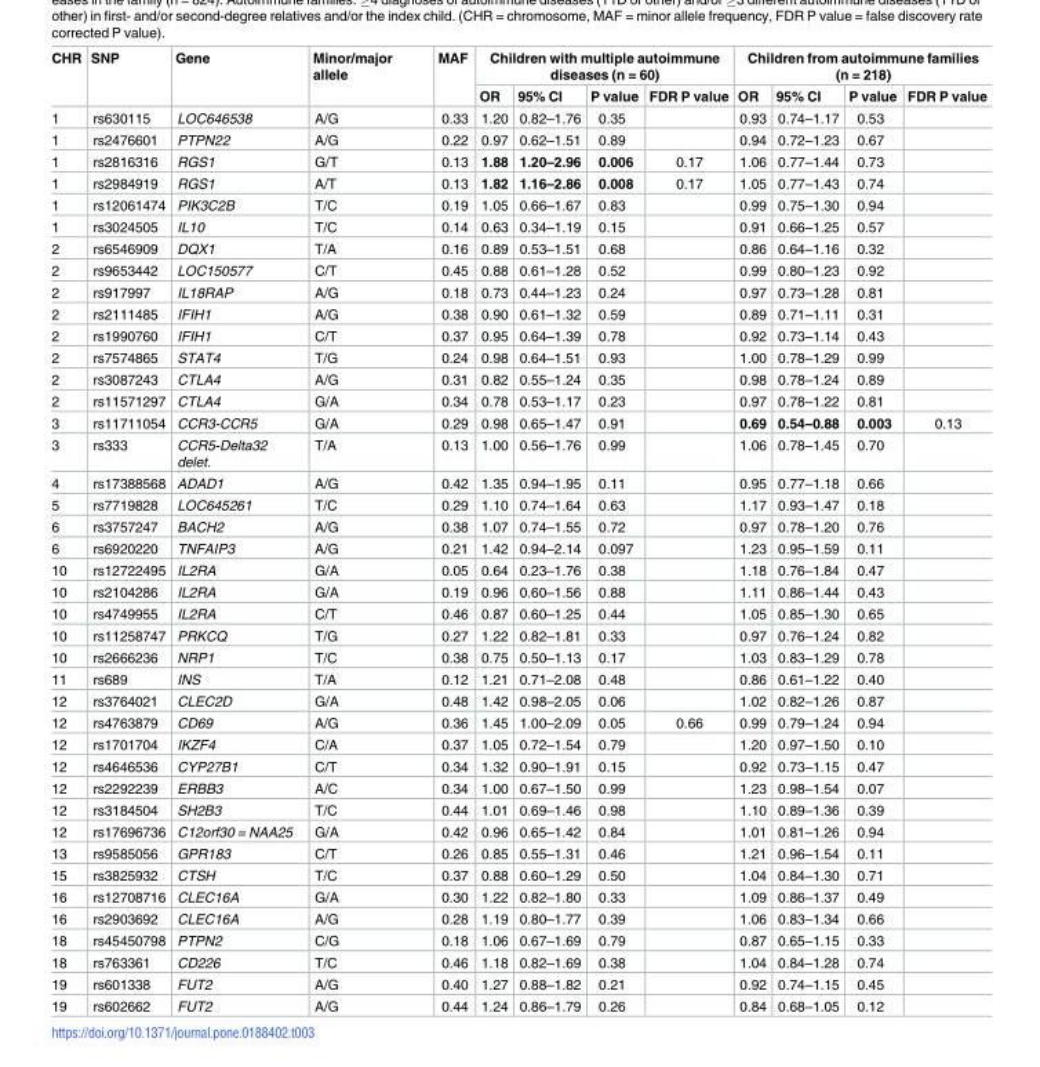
<table><thead><tr><td rowspan="2">CHR</td><td rowspan="2">SNP</td><td rowspan="2">Gene</td><td rowspan="2">Minor/major allele</td><td rowspan="2">MAF</td><td colspan="4">Children with multiple autoimmune diseases (n = 60)</td><td colspan="4">Children from autoimmune families (n = 218)</td></tr><tr><td>OR</td><td>95% CI</td><td>P value</td><td>FDR P value</td><td>OR</td><td>95% CI</td><td>P value</td><td>FDR P value</td></tr></thead><tbody><tr><td>1</td><td>rs630115</td><td>LOC646538</td><td>A/G</td><td>0.33</td><td>1.20</td><td>0.82–1.76</td><td>0.35</td><td></td><td>0.93</td><td>0.74–1.17</td><td>0.53</td><td></td></tr><tr><td>1</td><td>rs2476601</td><td>PTPN22</td><td>A/G</td><td>0.22</td><td>0.97</td><td>0.62–1.51</td><td>0.89</td><td></td><td>0.94</td><td>0.72–1.23</td><td>0.67</td><td></td></tr><tr><td>1</td><td>rs2816316</td><td>RGS1</td><td>G/T</td><td>0.13</td><td>1.88</td><td>1.20–2.96</td><td>0.006</td><td>0.17</td><td>1.06</td><td>0.77–1.44</td><td>0.73</td><td></td></tr><tr><td>1</td><td>rs2984919</td><td>RGS1</td><td>A/T</td><td>0.13</td><td>1.82</td><td>1.16–2.86</td><td>0.008</td><td>0.17</td><td>1.05</td><td>0.77–1.43</td><td>0.74</td><td></td></tr><tr><td>1</td><td>rs12061474</td><td>PIK3C2B</td><td>T/C</td><td>0.19</td><td>1.05</td><td>0.66–1.67</td><td>0.83</td><td></td><td>0.99</td><td>0.75–1.30</td><td>0.94</td><td></td></tr><tr><td>1</td><td>rs3024505</td><td>IL10</td><td>T/C</td><td>0.14</td><td>0.63</td><td>0.34–1.19</td><td>0.15</td><td></td><td>0.91</td><td>0.66–1.25</td><td>0.57</td><td></td></tr><tr><td>2</td><td>rs6546909</td><td>DQX1</td><td>T/A</td><td>0.16</td><td>0.89</td><td>0.53–1.51</td><td>0.68</td><td></td><td>0.86</td><td>0.64–1.16</td><td>0.32</td><td></td></tr><tr><td>2</td><td>rs9653442</td><td>LOC150577</td><td>C/T</td><td>0.45</td><td>0.88</td><td>0.61–1.28</td><td>0.52</td><td></td><td>0.99</td><td>0.80–1.23</td><td>0.92</td><td></td></tr><tr><td>2</td><td>rs917997</td><td>IL18RAP</td><td>A/G</td><td>0.18</td><td>0.73</td><td>0.44–1.23</td><td>0.24</td><td></td><td>0.97</td><td>0.73–1.28</td><td>0.81</td><td></td></tr><tr><td>2</td><td>rs2111485</td><td>IFIH1</td><td>A/G</td><td>0.38</td><td>0.90</td><td>0.61–1.32</td><td>0.59</td><td></td><td>0.89</td><td>0.71–1.11</td><td>0.31</td><td></td></tr><tr><td>2</td><td>rs1990760</td><td>IFIH1</td><td>C/T</td><td>0.37</td><td>0.95</td><td>0.64–1.39</td><td>0.78</td><td></td><td>0.92</td><td>0.73–1.14</td><td>0.43</td><td></td></tr><tr><td>2</td><td>rs7574865</td><td>STAT4</td><td>T/G</td><td>0.24</td><td>0.98</td><td>0.64–1.51</td><td>0.93</td><td></td><td>1.00</td><td>0.78–1.29</td><td>0.99</td><td></td></tr><tr><td>2</td><td>rs3087243</td><td>CTLA4</td><td>A/G</td><td>0.31</td><td>0.82</td><td>0.55–1.24</td><td>0.35</td><td></td><td>0.98</td><td>0.78–1.24</td><td>0.89</td><td></td></tr><tr><td>2</td><td>rs11571297</td><td>CTLA4</td><td>G/A</td><td>0.34</td><td>0.78</td><td>0.53–1.17</td><td>0.23</td><td></td><td>0.97</td><td>0.78–1.22</td><td>0.81</td><td></td></tr><tr><td>3</td><td>rs11711054</td><td>CCR3-CCR5</td><td>G/A</td><td>0.29</td><td>0.98</td><td>0.65–1.47</td><td>0.91</td><td></td><td>0.69</td><td>0.54–0.88</td><td>0.003</td><td>0.13</td></tr><tr><td>3</td><td>rs333</td><td>CCR5-Delta32 delet.</td><td>T/A</td><td>0.13</td><td>1.00</td><td>0.56–1.76</td><td>0.99</td><td></td><td>1.06</td><td>0.78–1.45</td><td>0.70</td><td></td></tr><tr><td>4</td><td>rs17388568</td><td>ADAD1</td><td>A/G</td><td>0.42</td><td>1.35</td><td>0.94–1.95</td><td>0.11</td><td></td><td>0.95</td><td>0.77–1.18</td><td>0.66</td><td></td></tr><tr><td>5</td><td>rs7719828</td><td>LOC645261</td><td>T/C</td><td>0.29</td><td>1.10</td><td>0.74–1.64</td><td>0.63</td><td></td><td>1.17</td><td>0.93–1.47</td><td>0.18</td><td></td></tr><tr><td>6</td><td>rs3757247</td><td>BACH2</td><td>A/G</td><td>0.38</td><td>1.07</td><td>0.74–1.55</td><td>0.72</td><td></td><td>0.97</td><td>0.78–1.20</td><td>0.76</td><td></td></tr><tr><td>6</td><td>rs6920220</td><td>TNFAIP3</td><td>A/G</td><td>0.21</td><td>1.42</td><td>0.94–2.14</td><td>0.097</td><td></td><td>1.23</td><td>0.95–1.59</td><td>0.11</td><td></td></tr><tr><td>10</td><td>rs12722495</td><td>IL2RA</td><td>G/A</td><td>0.05</td><td>0.64</td><td>0.23–1.76</td><td>0.38</td><td></td><td>1.18</td><td>0.76–1.84</td><td>0.47</td><td></td></tr><tr><td>10</td><td>rs2104286</td><td>IL2RA</td><td>G/A</td><td>0.19</td><td>0.96</td><td>0.60–1.56</td><td>0.88</td><td></td><td>1.11</td><td>0.86–1.44</td><td>0.43</td><td></td></tr><tr><td>10</td><td>rs4749955</td><td>IL2RA</td><td>C/T</td><td>0.46</td><td>0.87</td><td>0.60–1.25</td><td>0.44</td><td></td><td>1.05</td><td>0.85–1.30</td><td>0.65</td><td></td></tr><tr><td>10</td><td>rs11258747</td><td>PRKCQ</td><td>T/G</td><td>0.27</td><td>1.22</td><td>0.82–1.81</td><td>0.33</td><td></td><td>0.97</td><td>0.76–1.24</td><td>0.82</td><td></td></tr><tr><td>10</td><td>rs2666236</td><td>NRP1</td><td>T/C</td><td>0.38</td><td>0.75</td><td>0.50–1.13</td><td>0.17</td><td></td><td>1.03</td><td>0.83–1.29</td><td>0.78</td><td></td></tr><tr><td>11</td><td>rs689</td><td>INS</td><td>T/A</td><td>0.12</td><td>1.21</td><td>0.71–2.08</td><td>0.48</td><td></td><td>0.86</td><td>0.61–1.22</td><td>0.40</td><td></td></tr><tr><td>12</td><td>rs3764021</td><td>CLEC2D</td><td>G/A</td><td>0.48</td><td>1.42</td><td>0.98–2.05</td><td>0.06</td><td></td><td>1.02</td><td>0.82–1.26</td><td>0.87</td><td></td></tr><tr><td>12</td><td>rs4763879</td><td>CD69</td><td>A/G</td><td>0.36</td><td>1.45</td><td>1.00–2.09</td><td>0.05</td><td>0.66</td><td>0.99</td><td>0.79–1.24</td><td>0.94</td><td></td></tr><tr><td>12</td><td>rs1701704</td><td>IKZF4</td><td>C/A</td><td>0.37</td><td>1.05</td><td>0.72–1.54</td><td>0.79</td><td></td><td>1.20</td><td>0.97–1.50</td><td>0.10</td><td></td></tr><tr><td>12</td><td>rs4646536</td><td>CYP27B1</td><td>C/T</td><td>0.34</td><td>1.32</td><td>0.90–1.91</td><td>0.15</td><td></td><td>0.92</td><td>0.73–1.15</td><td>0.47</td><td></td></tr><tr><td>12</td><td>rs2292239</td><td>ERBB3</td><td>A/C</td><td>0.34</td><td>1.00</td><td>0.67–1.50</td><td>0.99</td><td></td><td>1.23</td><td>0.98–1.54</td><td>0.07</td><td></td></tr><tr><td>12</td><td>rs3184504</td><td>SH2B3</td><td>T/C</td><td>0.44</td><td>1.01</td><td>0.69–1.46</td><td>0.98</td><td></td><td>1.10</td><td>0.89–1.36</td><td>0.39</td><td></td></tr><tr><td>12</td><td>rs17696736</td><td>C12orf30 = NAA25</td><td>G/A</td><td>0.42</td><td>0.96</td><td>0.65–1.42</td><td>0.84</td><td></td><td>1.01</td><td>0.81–1.26</td><td>0.94</td><td></td></tr><tr><td>13</td><td>rs9585056</td><td>GPR183</td><td>C/T</td><td>0.26</td><td>0.85</td><td>0.55–1.31</td><td>0.46</td><td></td><td>1.21</td><td>0.96–1.54</td><td>0.11</td><td></td></tr><tr><td>15</td><td>rs3825932</td><td>CTSH</td><td>T/C</td><td>0.37</td><td>0.88</td><td>0.60–1.29</td><td>0.50</td><td></td><td>1.04</td><td>0.84–1.30</td><td>0.71</td><td></td></tr><tr><td>16</td><td>rs12708716</td><td>CLEC16A</td><td>G/A</td><td>0.30</td><td>1.22</td><td>0.82–1.80</td><td>0.33</td><td></td><td>1.09</td><td>0.86–1.37</td><td>0.49</td><td></td></tr><tr><td>16</td><td>rs2903692</td><td>CLEC16A</td><td>A/G</td><td>0.28</td><td>1.19</td><td>0.80–1.77</td><td>0.39</td><td></td><td>1.06</td><td>0.83–1.34</td><td>0.66</td><td></td></tr><tr><td>18</td><td>rs45450798</td><td>PTPN2</td><td>C/G</td><td>0.18</td><td>1.06</td><td>0.67–1.69</td><td>0.79</td><td></td><td>0.87</td><td>0.65–1.15</td><td>0.33</td><td></td></tr><tr><td>18</td><td>rs763361</td><td>CD226</td><td>T/C</td><td>0.46</td><td>1.18</td><td>0.82–1.69</td><td>0.38</td><td></td><td>1.04</td><td>0.84–1.28</td><td>0.74</td><td></td></tr><tr><td>19</td><td>rs601338</td><td>FUT2</td><td>A/G</td><td>0.40</td><td>1.27</td><td>0.88–1.82</td><td>0.21</td><td></td><td>0.92</td><td>0.74–1.15</td><td>0.45</td><td></td></tr><tr><td>19</td><td>rs602662</td><td>FUT2</td><td>A/G</td><td>0.44</td><td>1.24</td><td>0.86–1.79</td><td>0.26</td><td></td><td>0.84</td><td>0.68–1.05</td><td>0.12</td><td></td></tr></tbody></table>